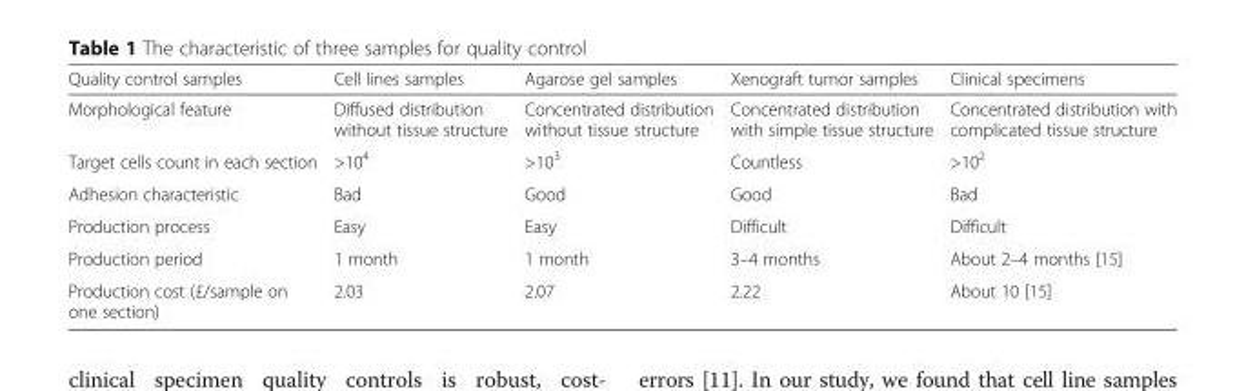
<table><thead><tr><td>Quality control samples</td><td>Cell lines samples</td><td>Agarose gel samples</td><td>Xenograft tumor samples</td><td>Clinical specimens</td></tr></thead><tbody><tr><td>Morphological feature</td><td>Diffused distribution without tissue structure</td><td>Concentrated distribution without tissue structure</td><td>Concentrated distribution with simple tissue structure</td><td>Concentrated distribution with complicated tissue structure</td></tr><tr><td>Target cells count in each section</td><td>&gt;10<sup>4</sup></td><td>&gt;10<sup>3</sup></td><td>Countless</td><td>&gt;10<sup>2</sup></td></tr><tr><td>Adhesion characteristic</td><td>Bad</td><td>Good</td><td>Good</td><td>Bad</td></tr><tr><td>Production process</td><td>Easy</td><td>Easy</td><td>Difficult</td><td>Difficult</td></tr><tr><td>Production period</td><td>1 month</td><td>1 month</td><td>3–4 months</td><td>About 2–4 months [15]</td></tr><tr><td>Production cost (£/sample on one section)</td><td>2.03</td><td>2.07</td><td>2.22</td><td>About 10 [15]</td></tr></tbody></table>